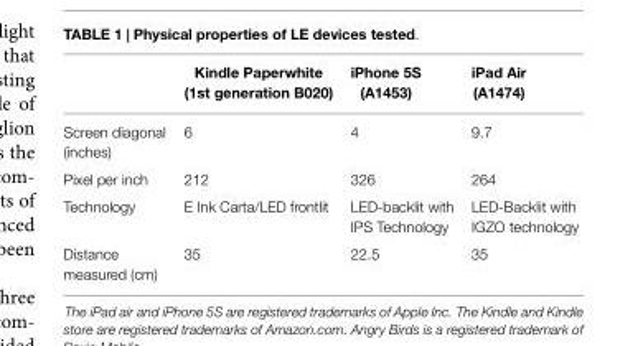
<table><thead><tr><td></td><td>Kindle Paperwhite (1st generation B020)</td><td>iPhone 5S (A1453)</td><td>iPad Air (A1474)</td></tr></thead><tbody><tr><td>Screen diagonal (inches)</td><td>6</td><td>4</td><td>9.7</td></tr><tr><td>Pixel per inch</td><td>212</td><td>326</td><td>264</td></tr><tr><td>Technology</td><td>E Ink Carta/LED frontlit</td><td>LED-backlit with IPS Technology</td><td>LED-Backlit with IGZO technology</td></tr><tr><td>Distance measured (cm)</td><td>35</td><td>22.5</td><td>35</td></tr></tbody></table>